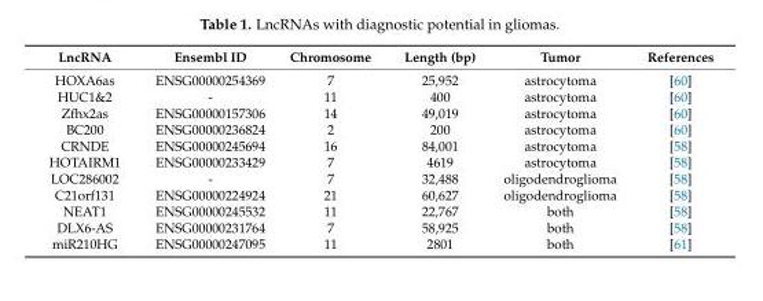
<table><thead><tr><td>LncRNA</td><td>Ensembl ID</td><td>Chromosome</td><td>Length (bp)</td><td>Tumor</td><td>References</td></tr></thead><tbody><tr><td>HOXA6as</td><td>ENSG00000254369</td><td>7</td><td>25,952</td><td>astrocytoma</td><td>[60]</td></tr><tr><td>HUC1&amp;2</td><td>-</td><td>11</td><td>400</td><td>astrocytoma</td><td>[60]</td></tr><tr><td>Zfhx2as</td><td>ENSG00000157306</td><td>14</td><td>49,019</td><td>astrocytoma</td><td>[60]</td></tr><tr><td>BC200</td><td>ENSG00000236824</td><td>2</td><td>200</td><td>astrocytoma</td><td>[60]</td></tr><tr><td>CRNDE</td><td>ENSG00000245694</td><td>16</td><td>84,001</td><td>astrocytoma</td><td>[58]</td></tr><tr><td>HOTAIRM1</td><td>ENSG00000233429</td><td>7</td><td>4619</td><td>astrocytoma</td><td>[58]</td></tr><tr><td>LOC286002</td><td>-</td><td>7</td><td>32,488</td><td>oligodendroglioma</td><td>[58]</td></tr><tr><td>C21orf131</td><td>ENSG00000224924</td><td>21</td><td>60,627</td><td>oligodendroglioma</td><td>[58]</td></tr><tr><td>NEAT1</td><td>ENSG00000245532</td><td>11</td><td>22,767</td><td>both</td><td>[58]</td></tr><tr><td>DLX6-AS</td><td>ENSG00000231764</td><td>7</td><td>58,925</td><td>both</td><td>[58]</td></tr><tr><td>miR210HG</td><td>ENSG00000247095</td><td>11</td><td>2801</td><td>both</td><td>[61]</td></tr></tbody></table>